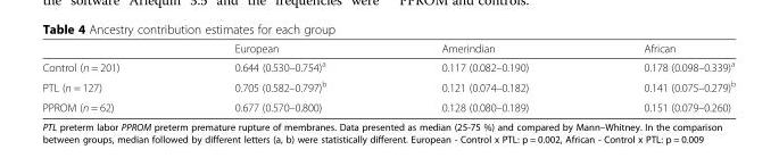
<table><thead><tr><td></td><td>European</td><td>Amerindian</td><td>African</td></tr></thead><tbody><tr><td>Control (n = 201)</td><td>0.644 (0.530–0.754)<sup>a</sup></td><td>0.117 (0.082–0.190)</td><td>0.178 (0.098–0.339)<sup>a</sup></td></tr><tr><td>PTL (n = 127)</td><td>0.705 (0.582–0.797)<sup>b</sup></td><td>0.121 (0.074–0.182)</td><td>0.141 (0.075–0.279)<sup>b</sup></td></tr><tr><td>PPROM (n = 62)</td><td>0.677 (0.570–0.800)</td><td>0.128 (0.080–0.189)</td><td>0.151 (0.079–0.260)</td></tr></tbody></table>